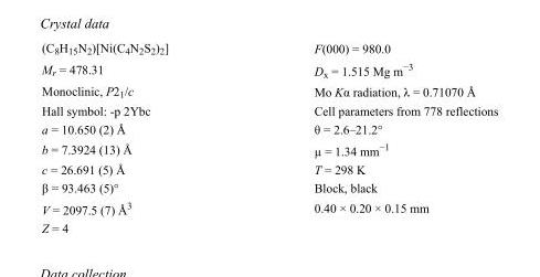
<table><tbody><tr><td>(C<sub>8</sub>H<sub>15</sub>N<sub>2</sub>)[Ni(C<sub>4</sub>N<sub>2</sub>S<sub>2</sub>)<sub>2</sub>]</td><td>F(000) = 980.0</td></tr><tr><td>M<sub>r</sub> = 478.31</td><td>D<sub>x</sub> = 1.515 Mg m<sup>−3</sup></td></tr><tr><td>Monoclinic, P2<sub>1</sub>/c</td><td>Mo Kα radiation, λ = 0.71070 Å</td></tr><tr><td>Hall symbol: -p 2Ybc</td><td>Cell parameters from 778 reflections</td></tr><tr><td>a = 10.650 (2) Å</td><td>θ = 2.6–21.2°</td></tr><tr><td>b = 7.3924 (13) Å</td><td>µ = 1.34 mm<sup>−1</sup></td></tr><tr><td>c = 26.691 (5) Å</td><td>T = 298 K</td></tr><tr><td>β = 93.463 (5)°</td><td>Block, black</td></tr><tr><td>V = 2097.5 (7) Å<sup>3</sup></td><td>0.40 × 0.20 × 0.15 mm</td></tr><tr><td>Z = 4</td><td></td></tr></tbody></table>